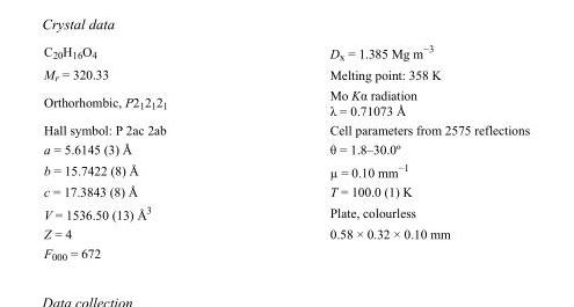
<table><tbody><tr><td>C<sub>20</sub>H<sub>16</sub>O<sub>4</sub></td><td>D<sub>x</sub> = 1.385 Mg m<sup>−3</sup></td></tr><tr><td>M<sub>r</sub> = 320.33</td><td>Melting point: 358 K</td></tr><tr><td>Orthorhombic, P2<sub>1</sub>2<sub>1</sub>2<sub>1</sub></td><td>Mo Kα radiation λ = 0.71073 Å</td></tr><tr><td>Hall symbol: P 2ac 2ab</td><td>Cell parameters from 2575 reflections</td></tr><tr><td>a = 5.6145 (3) Å</td><td>θ = 1.8–30.0º</td></tr><tr><td>b = 15.7422 (8) Å</td><td>µ = 0.10 mm<sup>−1</sup></td></tr><tr><td>c = 17.3843 (8) Å</td><td>T = 100.0 (1) K</td></tr><tr><td>V = 1536.50 (13) Å<sup>3</sup></td><td>Plate, colourless</td></tr><tr><td>Z = 4</td><td>0.58 × 0.32 × 0.10 mm</td></tr><tr><td>F<sub>000</sub> = 672</td><td></td></tr></tbody></table>